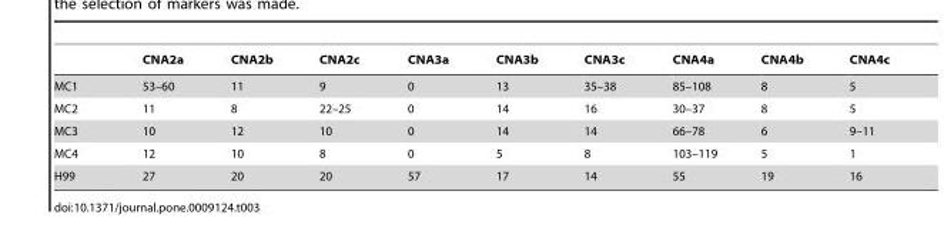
<table><thead><tr><td></td><td>CNA2a</td><td>CNA2b</td><td>CNA2c</td><td>CNA3a</td><td>CNA3b</td><td>CNA3c</td><td>CNA4a</td><td>CNA4b</td><td>CNA4c</td></tr></thead><tbody><tr><td>MC1</td><td>53–60</td><td>11</td><td>9</td><td>0</td><td>13</td><td>35–38</td><td>85–108</td><td>8</td><td>5</td></tr><tr><td>MC2</td><td>11</td><td>8</td><td>22–25</td><td>0</td><td>14</td><td>16</td><td>30–37</td><td>8</td><td>5</td></tr><tr><td>MC3</td><td>10</td><td>12</td><td>10</td><td>0</td><td>14</td><td>14</td><td>66–78</td><td>6</td><td>9–11</td></tr><tr><td>MC4</td><td>12</td><td>10</td><td>8</td><td>0</td><td>5</td><td>8</td><td>103–119</td><td>5</td><td>1</td></tr><tr><td>H99</td><td>27</td><td>20</td><td>20</td><td>57</td><td>17</td><td>14</td><td>55</td><td>19</td><td>16</td></tr></tbody></table>